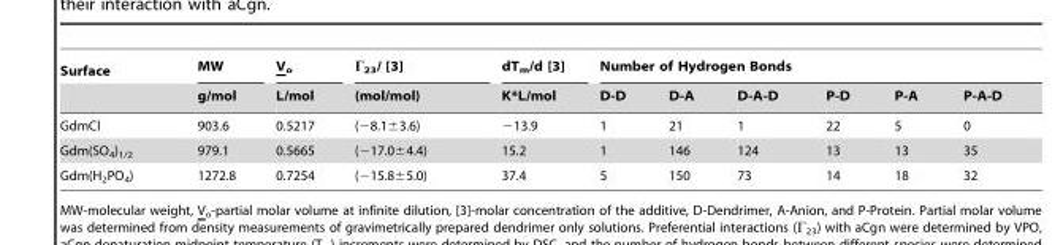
<table><thead><tr><td rowspan="2">Surface</td><td rowspan="2">MW g/mol</td><td rowspan="2">V<sub>o</sub> L/mol</td><td rowspan="2">Γ<sub>23</sub>/ [3] (mol/mol)</td><td rowspan="2">dT<sub>m</sub>/d [3] K*L/mol</td><td colspan="6">Number of Hydrogen Bonds</td></tr><tr><td>D-D</td><td>D-A</td><td>D-A-D</td><td>P-D</td><td>P-A</td><td>P-A-D</td></tr></thead><tbody><tr><td>GdmCl</td><td>903.6</td><td>0.5217</td><td>(−8.1±3.6)</td><td>−13.9</td><td>1</td><td>21</td><td>1</td><td>22</td><td>5</td><td>0</td></tr><tr><td>Gdm(SO<sub>4</sub>)<sub>1/2</sub></td><td>979.1</td><td>0.5665</td><td>(−17.0±4.4)</td><td>15.2</td><td>1</td><td>146</td><td>124</td><td>13</td><td>13</td><td>35</td></tr><tr><td>Gdm(H<sub>2</sub>PO<sub>4</sub>)</td><td>1272.8</td><td>0.7254</td><td>(−15.8±5.0)</td><td>37.4</td><td>5</td><td>150</td><td>73</td><td>14</td><td>18</td><td>32</td></tr></tbody></table>